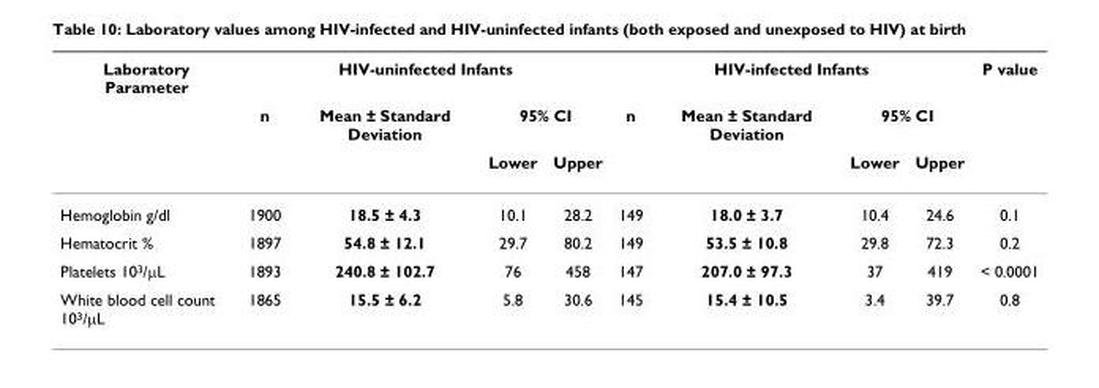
<table><thead><tr><td rowspan="3">Laboratory Parameter</td><td colspan="4">HIV-uninfected Infants</td><td colspan="4">HIV-infected Infants</td><td rowspan="3">P value</td></tr><tr><td rowspan="2">n</td><td rowspan="2">Mean ± Standard Deviation</td><td colspan="2">95% CI</td><td rowspan="2">n</td><td rowspan="2">Mean ± Standard Deviation</td><td colspan="2">95% CI</td></tr><tr><td>Lower</td><td>Upper</td><td>Lower</td><td>Upper</td></tr></thead><tbody><tr><td>Hemoglobin g/dl</td><td>1900</td><td>18.5 ± 4.3</td><td>10.1</td><td>28.2</td><td>149</td><td>18.0 ± 3.7</td><td>10.4</td><td>24.6</td><td>0.1</td></tr><tr><td>Hematocrit %</td><td>1897</td><td>54.8 ± 12.1</td><td>29.7</td><td>80.2</td><td>149</td><td>53.5 ± 10.8</td><td>29.8</td><td>72.3</td><td>0.2</td></tr><tr><td>Platelets 10<sup>3</sup>/μL</td><td>1893</td><td>240.8 ± 102.7</td><td>76</td><td>458</td><td>147</td><td>207.0 ± 97.3</td><td>37</td><td>419</td><td>&lt; 0.0001</td></tr><tr><td>White blood cell count 10<sup>3</sup>/μL</td><td>1865</td><td>15.5 ± 6.2</td><td>5.8</td><td>30.6</td><td>145</td><td>15.4 ± 10.5</td><td>3.4</td><td>39.7</td><td>0.8</td></tr></tbody></table>